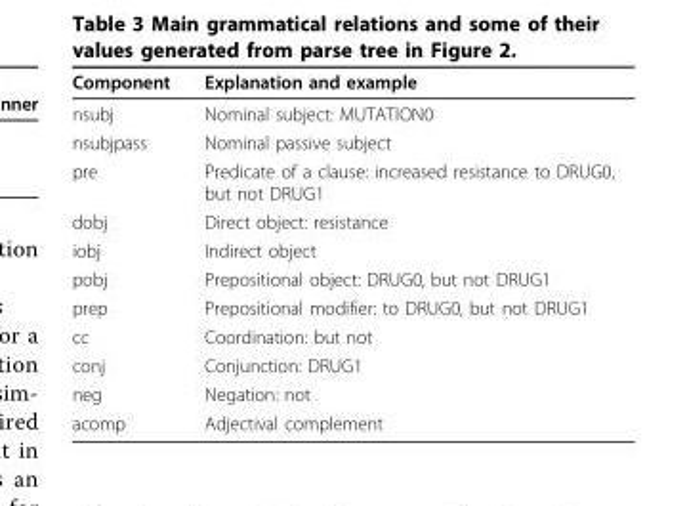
<table><thead><tr><td>Component</td><td>Explanation and example</td></tr></thead><tbody><tr><td>nsubj</td><td>Nominal subject: MUTATION0</td></tr><tr><td>nsubjpass</td><td>Nominal passive subject</td></tr><tr><td>pre</td><td>Predicate of a clause: increased resistance to DRUG0, but not DRUG1</td></tr><tr><td>dobj</td><td>Direct object: resistance</td></tr><tr><td>iobj</td><td>Indirect object</td></tr><tr><td>pobj</td><td>Prepositional object: DRUG0, but not DRUG1</td></tr><tr><td>prep</td><td>Prepositional modifier: to DRUG0, but not DRUG1</td></tr><tr><td>cc</td><td>Coordination: but not</td></tr><tr><td>conj</td><td>Conjunction: DRUG1</td></tr><tr><td>neg</td><td>Negation: not</td></tr><tr><td>acomp</td><td>Adjectival complement</td></tr></tbody></table>